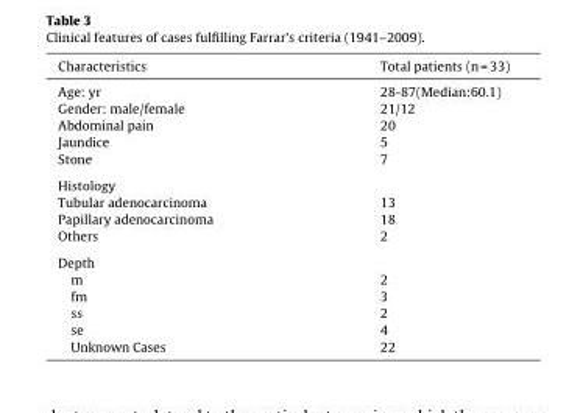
<table><thead><tr><td>Characteristics</td><td>Total patients (n = 33)</td></tr></thead><tbody><tr><td>Age: yr</td><td>28-87(Median:60.1)</td></tr><tr><td>Gender: male/female</td><td>21/12</td></tr><tr><td>Abdominal pain</td><td>20</td></tr><tr><td>Jaundice</td><td>5</td></tr><tr><td>Stone</td><td>7</td></tr><tr><td colspan="2">Histology</td></tr><tr><td>Tubular adenocarcinoma</td><td>13</td></tr><tr><td>Papillary adenocarcinoma</td><td>18</td></tr><tr><td>Others</td><td>2</td></tr><tr><td colspan="2">Depth</td></tr><tr><td>m</td><td>2</td></tr><tr><td>fm</td><td>3</td></tr><tr><td>ss</td><td>2</td></tr><tr><td>se</td><td>4</td></tr><tr><td>Unknown Cases</td><td>22</td></tr></tbody></table>